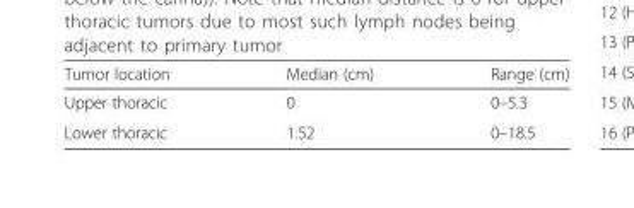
<table><thead><tr><td>Tumor location</td><td>Median (cm)</td><td>Range (cm)</td></tr></thead><tbody><tr><td>Upper thoracic</td><td>0</td><td>0–5.3</td></tr><tr><td>Lower thoracic</td><td>1.52</td><td>0–18.5</td></tr></tbody></table>